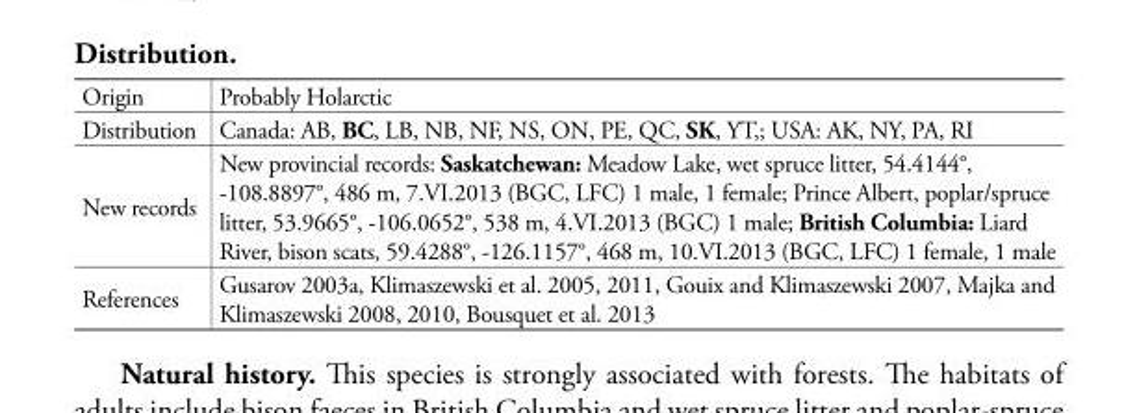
<table><tbody><tr><td>Origin</td><td>Probably Holarctic</td></tr><tr><td>Distribution</td><td>Canada: AB, BC, LB, NB, NF, NS, ON, PE, QC, SK, YT,; USA: AK, NY, PA, RI</td></tr><tr><td>New records</td><td>New provincial records: Saskatchewan: Meadow Lake, wet spruce litter, 54.4144°, -108.8897°, 486 m, 7.VI.2013 (BGC, LFC) 1 male, 1 female; Prince Albert, poplar/spruce litter, 53.9665°, -106.0652°, 538 m, 4.VI.2013 (BGC) 1 male; British Columbia: Liard River, bison scats, 59.4288°, -126.1157°, 468 m, 10.VI.2013 (BGC, LFC) 1 female, 1 male</td></tr><tr><td>References</td><td>Gusarov 2003a, Klimaszewski et al. 2005, 2011, Gouix and Klimaszewski 2007, Majka and Klimaszewski 2008, 2010, Bousquet et al. 2013</td></tr></tbody></table>